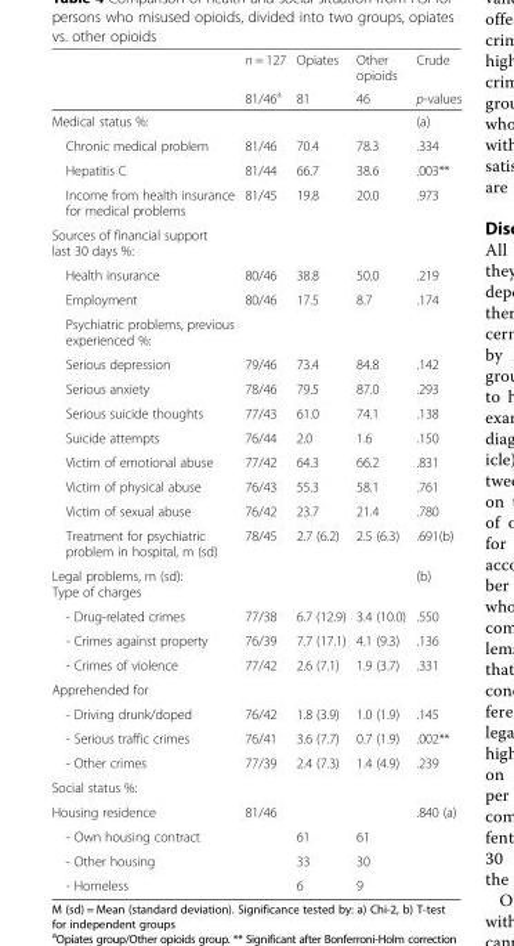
<table><thead><tr><td rowspan="2"></td><td rowspan="2">n = 127 81/46<sup>a</sup></td><td rowspan="2">Opiates 81</td><td rowspan="2">Other opioids 46</td><td rowspan="2">Crude p-values</td></tr><tr></tr></thead><tbody><tr><td>Medical status %:</td><td></td><td></td><td></td><td>(a)</td></tr><tr><td>Chronic medical problem</td><td>81/46</td><td>70.4</td><td>78.3</td><td>.334</td></tr><tr><td>Hepatitis C</td><td>81/44</td><td>66.7</td><td>38.6</td><td>.003**</td></tr><tr><td>Income from health insurance for medical problems</td><td>81/45</td><td>19.8</td><td>20.0</td><td>.973</td></tr><tr><td colspan="5">Sources of financial support last 30 days %:</td></tr><tr><td>Health insurance</td><td>80/46</td><td>38.8</td><td>50.0</td><td>.219</td></tr><tr><td>Employment</td><td>80/46</td><td>17.5</td><td>8.7</td><td>.174</td></tr><tr><td colspan="5">Psychiatric problems, previous experienced %:</td></tr><tr><td>Serious depression</td><td>79/46</td><td>73.4</td><td>84.8</td><td>.142</td></tr><tr><td>Serious anxiety</td><td>78/46</td><td>79.5</td><td>87.0</td><td>.293</td></tr><tr><td>Serious suicide thoughts</td><td>77/43</td><td>61.0</td><td>74.1</td><td>.138</td></tr><tr><td>Suicide attempts</td><td>76/44</td><td>2.0</td><td>1.6</td><td>.150</td></tr><tr><td>Victim of emotional abuse</td><td>77/42</td><td>64.3</td><td>66.2</td><td>.831</td></tr><tr><td>Victim of physical abuse</td><td>76/43</td><td>55.3</td><td>58.1</td><td>.761</td></tr><tr><td>Victim of sexual abuse</td><td>76/42</td><td>23.7</td><td>21.4</td><td>.780</td></tr><tr><td>Treatment for psychiatric problem in hospital, m (sd)</td><td>78/45</td><td>2.7 (6.2)</td><td>2.5 (6.3)</td><td>.691(b)</td></tr><tr><td>Legal problems, m (sd): Type of charges</td><td></td><td></td><td></td><td>(b)</td></tr><tr><td>- Drug-related crimes</td><td>77/38</td><td>6.7 (12.9)</td><td>3.4 (10.0)</td><td>.550</td></tr><tr><td>- Crimes against property</td><td>76/39</td><td>7.7 (17.1)</td><td>4.1 (9.3)</td><td>.136</td></tr><tr><td>- Crimes of violence</td><td>77/42</td><td>2.6 (7.1)</td><td>1.9 (3.7)</td><td>.331</td></tr><tr><td colspan="5">Apprehended for</td></tr><tr><td>- Driving drunk/doped</td><td>76/42</td><td>1.8 (3.9)</td><td>1.0 (1.9)</td><td>.145</td></tr><tr><td>- Serious traffic crimes</td><td>76/41</td><td>3.6 (7.7)</td><td>0.7 (1.9)</td><td>.002**</td></tr><tr><td>- Other crimes</td><td>77/39</td><td>2.4 (7.3)</td><td>1.4 (4.9)</td><td>.239</td></tr><tr><td colspan="5">Social status %:</td></tr><tr><td>Housing residence</td><td>81/46</td><td></td><td></td><td>.840 (a)</td></tr><tr><td>- Own housing contract</td><td></td><td>61</td><td>61</td><td></td></tr><tr><td>- Other housing</td><td></td><td>33</td><td>30</td><td></td></tr><tr><td>- Homeless</td><td></td><td>6</td><td>9</td><td></td></tr></tbody></table>